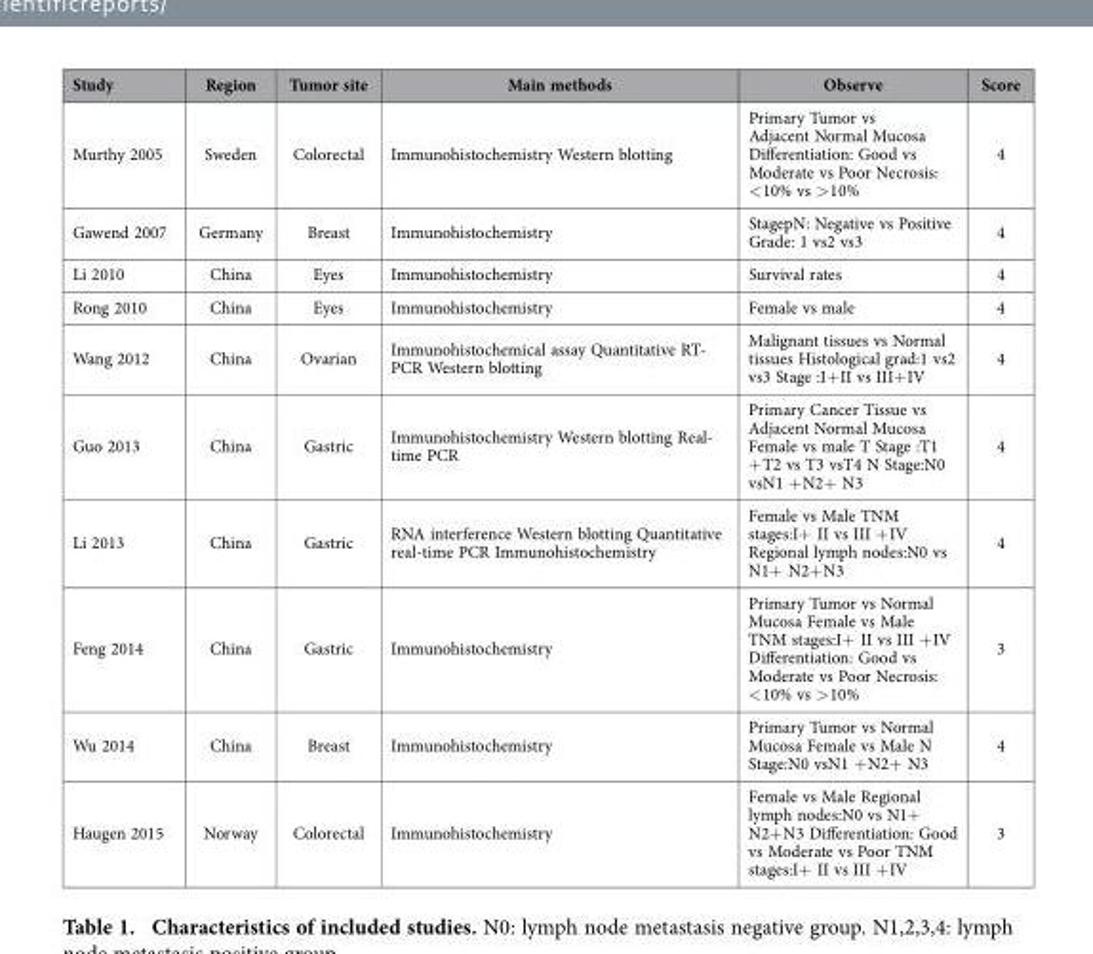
<table><thead><tr><td>Study</td><td>Region</td><td>Tumor site</td><td>Main methods</td><td>Observe</td><td>Score</td></tr></thead><tbody><tr><td>Murthy 2005</td><td>Sweden</td><td>Colorectal</td><td>Immunohistochemistry Western blotting</td><td>Primary Tumor vs Adjacent Normal Mucosa Differentiation: Good vs Moderate vs Poor Necrosis: &lt; 10% vs &gt; 10%</td><td>4</td></tr><tr><td>Gawend 2007</td><td>Germany</td><td>Breast</td><td>Immunohistochemistry</td><td>StagepN: Negative vs Positive Grade: 1 vs2 vs3</td><td>4</td></tr><tr><td>Li 2010</td><td>China</td><td>Eyes</td><td>Immunohistochemistry</td><td>Survival rates</td><td>4</td></tr><tr><td>Rong 2010</td><td>China</td><td>Eyes</td><td>Immunohistochemistry</td><td>Female vs male</td><td>4</td></tr><tr><td>Wang 2012</td><td>China</td><td>Ovarian</td><td>Immunohistochemical assay Quantitative RT- PCR Western blotting</td><td>Malignant tissues vs Normal tissues Histological grad:1 vs2 vs3 Stage :I+ II vs III+ IV</td><td>4</td></tr><tr><td>Guo 2013</td><td>China</td><td>Gastric</td><td>Immunohistochemistry Western blotting Real- time PCR</td><td>Primary Cancer Tissue vs Adjacent Normal Mucosa Female vs male T Stage :T1 + T2 vs T3 vsT4 N Stage:N0 vsN1 + N2+ N3</td><td>4</td></tr><tr><td>Li 2013</td><td>China</td><td>Gastric</td><td>RNA interference Western blotting Quantitative real-time PCR Immunohistochemistry</td><td>Female vs Male TNM stages:I+ II vs III + IV Regional lymph nodes:N0 vs N1+ N2+ N3</td><td>4</td></tr><tr><td>Feng 2014</td><td>China</td><td>Gastric</td><td>Immunohistochemistry</td><td>Primary Tumor vs Normal Mucosa Female vs Male TNM stages:I+ II vs III + IV Differentiation: Good vs Moderate vs Poor Necrosis: &lt; 10% vs &gt; 10%</td><td>3</td></tr><tr><td>Wu 2014</td><td>China</td><td>Breast</td><td>Immunohistochemistry</td><td>Primary Tumor vs Normal Mucosa Female vs Male N Stage:N0 vsN1 + N2+ N3</td><td>4</td></tr><tr><td>Haugen 2015</td><td>Norway</td><td>Colorectal</td><td>Immunohistochemistry</td><td>Female vs Male Regional lymph nodes:N0 vs N1+ N2+ N3 Differentiation: Good vs Moderate vs Poor TNM stages:I+ II vs III + IV</td><td>3</td></tr></tbody></table>